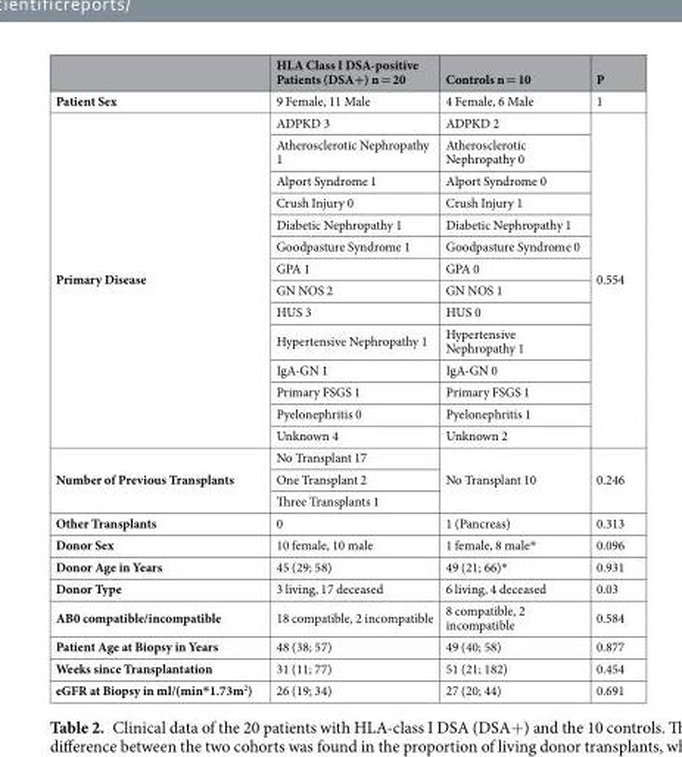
<table><thead><tr><td></td><td>HLA Class I DSA-positive Patients (DSA+) n = 20</td><td>Controls n = 10</td><td>P</td></tr></thead><tbody><tr><td>Patient Sex</td><td>9 Female, 11 Male</td><td>4 Female, 6 Male</td><td>1</td></tr><tr><td rowspan="14">Primary Disease</td><td>ADPKD 3</td><td>ADPKD 2</td><td rowspan="14">0.554</td></tr><tr><td>Atherosclerotic Nephropathy 1</td><td>Atherosclerotic Nephropathy 0</td></tr><tr><td>Alport Syndrome 1</td><td>Alport Syndrome 0</td></tr><tr><td>Crush Injury 0</td><td>Crush Injury 1</td></tr><tr><td>Diabetic Nephropathy 1</td><td>Diabetic Nephropathy 1</td></tr><tr><td>Goodpasture Syndrome 1</td><td>Goodpasture Syndrome 0</td></tr><tr><td>GPA 1</td><td>GPA 0</td></tr><tr><td>GN NOS 2</td><td>GN NOS 1</td></tr><tr><td>HUS 3</td><td>HUS 0</td></tr><tr><td>Hypertensive Nephropathy 1</td><td>Hypertensive Nephropathy 1</td></tr><tr><td>IgA-GN 1</td><td>IgA-GN 0</td></tr><tr><td>Primary FSGS 1</td><td>Primary FSGS 1</td></tr><tr><td>Pyelonephritis 0</td><td>Pyelonephritis 1</td></tr><tr><td>Unknown 4</td><td>Unknown 2</td></tr><tr><td rowspan="3">Number of Previous Transplants</td><td>No Transplant 17</td><td rowspan="3">No Transplant 10</td><td rowspan="3">0.246</td></tr><tr><td>One Transplant 2</td></tr><tr><td>Three Transplants 1</td></tr><tr><td>Other Transplants</td><td>0</td><td>1 (Pancreas)</td><td>0.313</td></tr><tr><td>Donor Sex</td><td>10 female, 10 male</td><td>1 female, 8 male*</td><td>0.096</td></tr><tr><td>Donor Age in Years</td><td>45 (29; 58)</td><td>49 (21; 66)*</td><td>0.931</td></tr><tr><td>Donor Type</td><td>3 living, 17 deceased</td><td>6 living, 4 deceased</td><td>0.03</td></tr><tr><td>AB0 compatible/incompatible</td><td>18 compatible, 2 incompatible</td><td>8 compatible, 2 incompatible</td><td>0.584</td></tr><tr><td>Patient Age at Biopsy in Years</td><td>48 (38; 57)</td><td>49 (40; 58)</td><td>0.877</td></tr><tr><td>Weeks since Transplantation</td><td>31 (11; 77)</td><td>51 (21; 182)</td><td>0.454</td></tr><tr><td>eGFR at Biopsy in ml/(min*1.73m<sup>2</sup>)</td><td>26 (19; 34)</td><td>27 (20; 44)</td><td>0.691</td></tr></tbody></table>